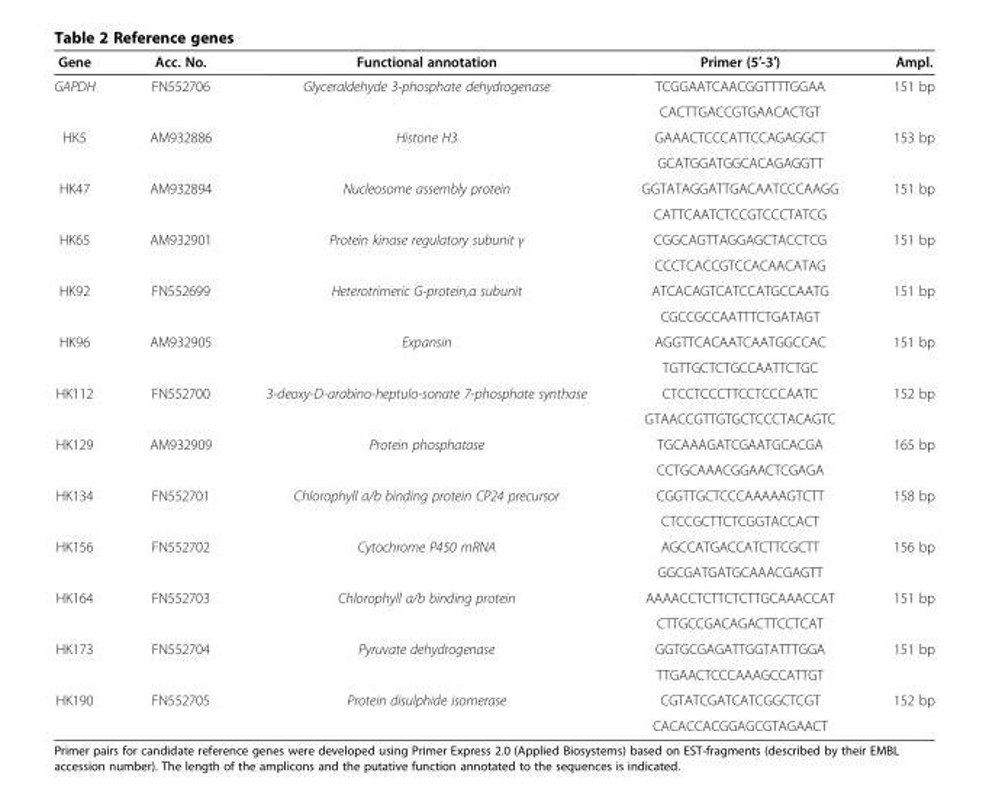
<table><thead><tr><td>Gene</td><td>Acc. No.</td><td>Functional annotation</td><td>Primer (5′-3′)</td><td>Ampl.</td></tr></thead><tbody><tr><td rowspan="2">GAPDH</td><td rowspan="2">FN552706</td><td rowspan="2">Glyceraldehyde 3-phosphate dehydrogenase</td><td>TCGGAATCAACGGTTTTGGAA</td><td rowspan="2">151 bp</td></tr><tr><td>CACTTGACCGTGAACACTGT</td></tr><tr><td rowspan="2">HK5</td><td rowspan="2">AM932886</td><td rowspan="2">Histone H3</td><td>GAAACTCCCATTCCAGAGGCT</td><td rowspan="2">153 bp</td></tr><tr><td>GCATGGATGGCACAGAGGTT</td></tr><tr><td rowspan="2">HK47</td><td rowspan="2">AM932894</td><td rowspan="2">Nucleosome assembly protein</td><td>GGTATAGGATTGACAATCCCAAGG</td><td rowspan="2">151 bp</td></tr><tr><td>CATTCAATCTCCGTCCCTATCG</td></tr><tr><td rowspan="2">HK65</td><td rowspan="2">AM932901</td><td rowspan="2">Protein kinase regulatory subunit γ</td><td>CGGCAGTTAGGAGCTACCTCG</td><td rowspan="2">151 bp</td></tr><tr><td>CCCTCACCGTCCACAACATAG</td></tr><tr><td rowspan="2">HK92</td><td rowspan="2">FN552699</td><td rowspan="2">Heterotrimeric G-protein,α subunit</td><td>ATCACAGTCATCCATGCCAATG</td><td rowspan="2">151 bp</td></tr><tr><td>CGCCGCCAATTTCTGATAGT</td></tr><tr><td rowspan="2">HK96</td><td rowspan="2">AM932905</td><td rowspan="2">Expansin</td><td>AGGTTCACAATCAATGGCCAC</td><td rowspan="2">151 bp</td></tr><tr><td>TGTTGCTCTGCCAATTCTGC</td></tr><tr><td rowspan="2">HK112</td><td rowspan="2">FN552700</td><td rowspan="2">3-deoxy-D-arabino-heptulo-sonate 7-phosphate synthase</td><td>CTCCTCCCTTCCTCCCAATC</td><td rowspan="2">152 bp</td></tr><tr><td>GTAACCGTTGTGCTCCCTACAGTC</td></tr><tr><td rowspan="2">HK129</td><td rowspan="2">AM932909</td><td rowspan="2">Protein phosphatase</td><td>TGCAAAGATCGAATGCACGA</td><td rowspan="2">165 bp</td></tr><tr><td>CCTGCAAACGGAACTCGAGA</td></tr><tr><td rowspan="2">HK134</td><td rowspan="2">FN552701</td><td rowspan="2">Chlorophyll a/b binding protein CP24 precursor</td><td>CGGTTGCTCCCAAAAAGTCTT</td><td rowspan="2">158 bp</td></tr><tr><td>CTCCGCTTCTCGGTACCACT</td></tr><tr><td rowspan="2">HK156</td><td rowspan="2">FN552702</td><td rowspan="2">Cytochrome P450 mRNA</td><td>AGCCATGACCATCTTCGCTT</td><td rowspan="2">156 bp</td></tr><tr><td>GGCGATGATGCAAACGAGTT</td></tr><tr><td rowspan="2">HK164</td><td rowspan="2">FN552703</td><td rowspan="2">Chlorophyll a/b binding protein</td><td>AAAACCTCTTCTCTTGCAAACCAT</td><td rowspan="2">151 bp</td></tr><tr><td>CTTGCCGACAGACTTCCTCAT</td></tr><tr><td rowspan="2">HK173</td><td rowspan="2">FN552704</td><td rowspan="2">Pyruvate dehydrogenase</td><td>GGTGCGAGATTGGTATTTGGA</td><td rowspan="2">151 bp</td></tr><tr><td>TTGAACTCCCAAAGCCATTGT</td></tr><tr><td rowspan="2">HK190</td><td rowspan="2">FN552705</td><td rowspan="2">Protein disulphide isomerase</td><td>CGTATCGATCATCGGCTCGT</td><td rowspan="2">152 bp</td></tr><tr><td>CACACCACGGAGCGTAGAACT</td></tr></tbody></table>